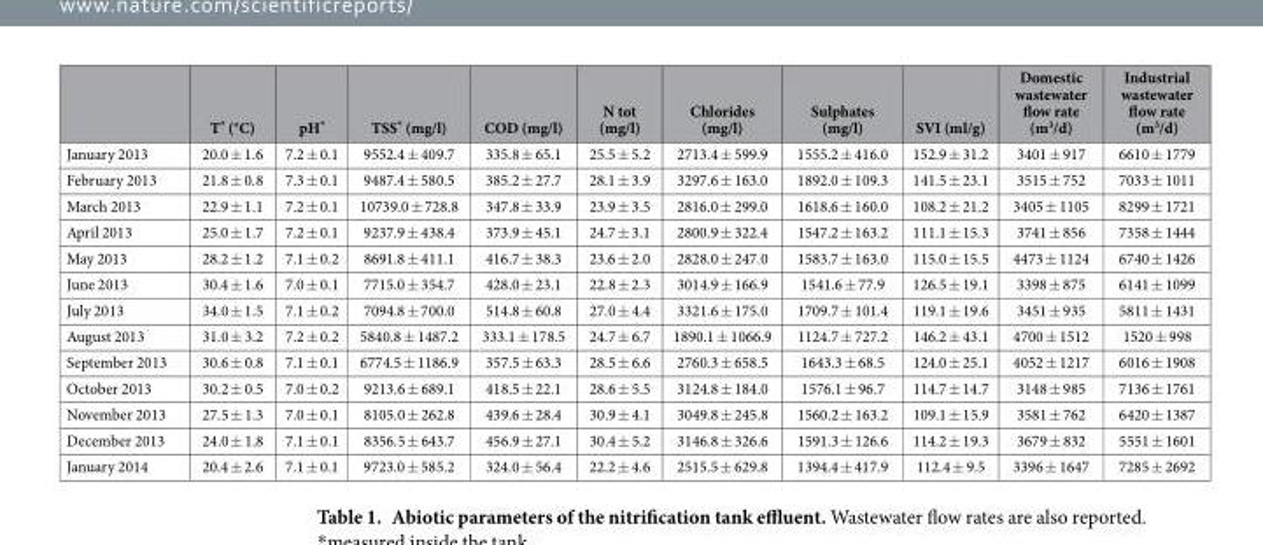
<table><thead><tr><td></td><td>T* (°C)</td><td>pH*</td><td>TSS* (mg/l)</td><td>COD (mg/l)</td><td>N tot (mg/l)</td><td>Chlorides (mg/l)</td><td>Sulphates (mg/l)</td><td>SVI (ml/g)</td><td>Domestic wastewater flow rate (m<sup>3</sup>/d)</td><td>Industrial wastewater flow rate (m<sup>3</sup>/d)</td></tr></thead><tbody><tr><td>January 2013</td><td>20.0 ± 1.6</td><td>7.2 ± 0.1</td><td>9552.4 ± 409.7</td><td>335.8 ± 65.1</td><td>25.5 ± 5.2</td><td>2713.4 ± 599.9</td><td>1555.2 ± 416.0</td><td>152.9 ± 31.2</td><td>3401 ± 917</td><td>6610 ± 1779</td></tr><tr><td>February 2013</td><td>21.8 ± 0.8</td><td>7.3 ± 0.1</td><td>9487.4 ± 580.5</td><td>385.2 ± 27.7</td><td>28.1 ± 3.9</td><td>3297.6 ± 163.0</td><td>1892.0 ± 109.3</td><td>141.5 ± 23.1</td><td>3515 ± 752</td><td>7033 ± 1011</td></tr><tr><td>March 2013</td><td>22.9 ± 1.1</td><td>7.2 ± 0.1</td><td>10739.0 ± 728.8</td><td>347.8 ± 33.9</td><td>23.9 ± 3.5</td><td>2816.0 ± 299.0</td><td>1618.6 ± 160.0</td><td>108.2 ± 21.2</td><td>3405 ± 1105</td><td>8299 ± 1721</td></tr><tr><td>April 2013</td><td>25.0 ± 1.7</td><td>7.2 ± 0.1</td><td>9237.9 ± 438.4</td><td>373.9 ± 45.1</td><td>24.7 ± 3.1</td><td>2800.9 ± 322.4</td><td>1547.2 ± 163.2</td><td>111.1 ± 15.3</td><td>3741 ± 856</td><td>7358 ± 1444</td></tr><tr><td>May 2013</td><td>28.2 ± 1.2</td><td>7.1 ± 0.2</td><td>8691.8 ± 411.1</td><td>416.7 ± 38.3</td><td>23.6 ± 2.0</td><td>2828.0 ± 247.0</td><td>1583.7 ± 163.0</td><td>115.0 ± 15.5</td><td>4473 ± 1124</td><td>6740 ± 1426</td></tr><tr><td>June 2013</td><td>30.4 ± 1.6</td><td>7.0 ± 0.1</td><td>7715.0 ± 354.7</td><td>428.0 ± 23.1</td><td>22.8 ± 2.3</td><td>3014.9 ± 166.9</td><td>1541.6 ± 77.9</td><td>126.5 ± 19.1</td><td>3398 ± 875</td><td>6141 ± 1099</td></tr><tr><td>July 2013</td><td>34.0 ± 1.5</td><td>7.1 ± 0.2</td><td>7094.8 ± 700.0</td><td>514.8 ± 60.8</td><td>27.0 ± 4.4</td><td>3321.6 ± 175.0</td><td>1709.7 ± 101.4</td><td>119.1 ± 19.6</td><td>3451 ± 935</td><td>5811 ± 1431</td></tr><tr><td>August 2013</td><td>31.0 ± 3.2</td><td>7.2 ± 0.2</td><td>5840.8 ± 1487.2</td><td>333.1 ± 178.5</td><td>24.7 ± 6.7</td><td>1890.1 ± 1066.9</td><td>1124.7 ± 727.2</td><td>146.2 ± 43.1</td><td>4700 ± 1512</td><td>1520 ± 998</td></tr><tr><td>September 2013</td><td>30.6 ± 0.8</td><td>7.1 ± 0.1</td><td>6774.5 ± 1186.9</td><td>357.5 ± 63.3</td><td>28.5 ± 6.6</td><td>2760.3 ± 658.5</td><td>1643.3 ± 68.5</td><td>124.0 ± 25.1</td><td>4052 ± 1217</td><td>6016 ± 1908</td></tr><tr><td>October 2013</td><td>30.2 ± 0.5</td><td>7.0 ± 0.2</td><td>9213.6 ± 689.1</td><td>418.5 ± 22.1</td><td>28.6 ± 5.5</td><td>3124.8 ± 184.0</td><td>1576.1 ± 96.7</td><td>114.7 ± 14.7</td><td>3148 ± 985</td><td>7136 ± 1761</td></tr><tr><td>November 2013</td><td>27.5 ± 1.3</td><td>7.0 ± 0.1</td><td>8105.0 ± 262.8</td><td>439.6 ± 28.4</td><td>30.9 ± 4.1</td><td>3049.8 ± 245.8</td><td>1560.2 ± 163.2</td><td>109.1 ± 15.9</td><td>3581 ± 762</td><td>6420 ± 1387</td></tr><tr><td>December 2013</td><td>24.0 ± 1.8</td><td>7.1 ± 0.1</td><td>8356.5 ± 643.7</td><td>456.9 ± 27.1</td><td>30.4 ± 5.2</td><td>3146.8 ± 326.6</td><td>1591.3 ± 126.6</td><td>114.2 ± 19.3</td><td>3679 ± 832</td><td>5551 ± 1601</td></tr><tr><td>January 2014</td><td>20.4 ± 2.6</td><td>7.1 ± 0.1</td><td>9723.0 ± 585.2</td><td>324.0 ± 56.4</td><td>22.2 ± 4.6</td><td>2515.5 ± 629.8</td><td>1394.4 ± 417.9</td><td>112.4 ± 9.5</td><td>3396 ± 1647</td><td>7285 ± 2692</td></tr></tbody></table>